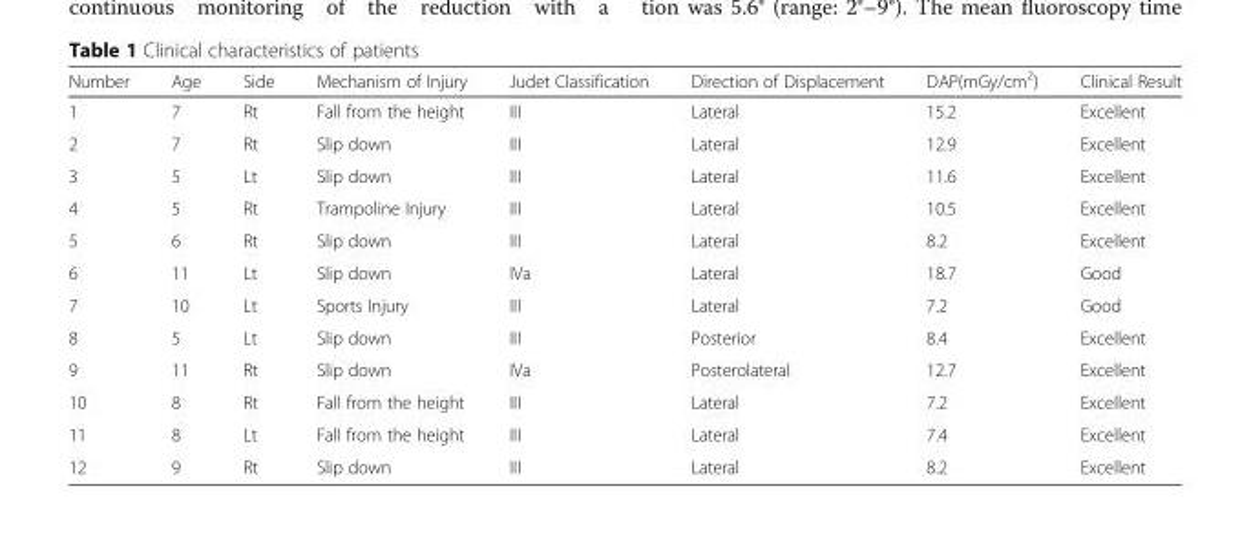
<table><thead><tr><td>Number</td><td>Age</td><td>Side</td><td>Mechanism of Injury</td><td>Judet Classification</td><td>Direction of Displacement</td><td>DAP(mGy/cm<sup>2</sup>)</td><td>Clinical Result</td></tr></thead><tbody><tr><td>1</td><td>7</td><td>Rt</td><td>Fall from the height</td><td>III</td><td>Lateral</td><td>15.2</td><td>Excellent</td></tr><tr><td>2</td><td>7</td><td>Rt</td><td>Slip down</td><td>III</td><td>Lateral</td><td>12.9</td><td>Excellent</td></tr><tr><td>3</td><td>5</td><td>Lt</td><td>Slip down</td><td>III</td><td>Lateral</td><td>11.6</td><td>Excellent</td></tr><tr><td>4</td><td>5</td><td>Rt</td><td>Trampoline Injury</td><td>III</td><td>Lateral</td><td>10.5</td><td>Excellent</td></tr><tr><td>5</td><td>6</td><td>Rt</td><td>Slip down</td><td>III</td><td>Lateral</td><td>8.2</td><td>Excellent</td></tr><tr><td>6</td><td>11</td><td>Lt</td><td>Slip down</td><td>IVa</td><td>Lateral</td><td>18.7</td><td>Good</td></tr><tr><td>7</td><td>10</td><td>Lt</td><td>Sports Injury</td><td>III</td><td>Lateral</td><td>7.2</td><td>Good</td></tr><tr><td>8</td><td>5</td><td>Lt</td><td>Slip down</td><td>III</td><td>Posterior</td><td>8.4</td><td>Excellent</td></tr><tr><td>9</td><td>11</td><td>Rt</td><td>Slip down</td><td>IVa</td><td>Posterolateral</td><td>12.7</td><td>Excellent</td></tr><tr><td>10</td><td>8</td><td>Rt</td><td>Fall from the height</td><td>III</td><td>Lateral</td><td>7.2</td><td>Excellent</td></tr><tr><td>11</td><td>8</td><td>Lt</td><td>Fall from the height</td><td>III</td><td>Lateral</td><td>7.4</td><td>Excellent</td></tr><tr><td>12</td><td>9</td><td>Rt</td><td>Slip down</td><td>III</td><td>Lateral</td><td>8.2</td><td>Excellent</td></tr></tbody></table>